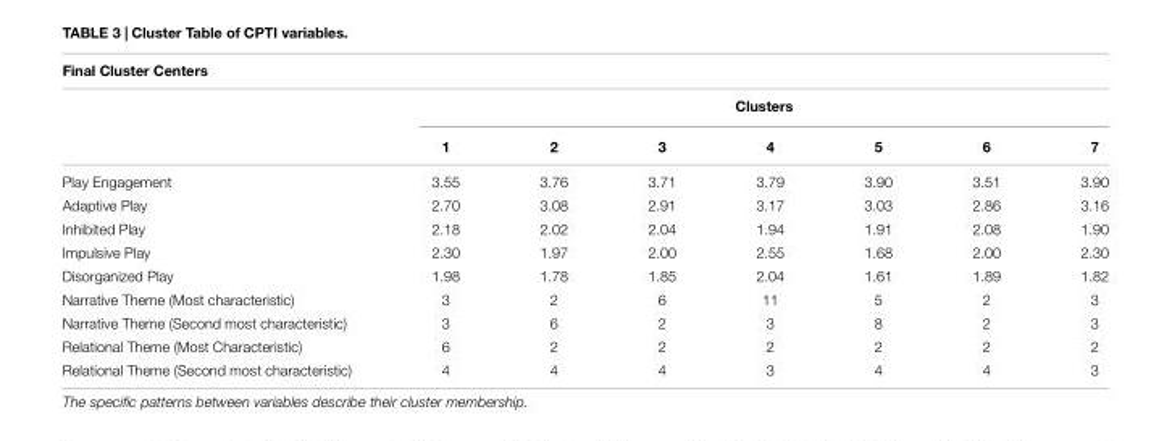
<table><thead><tr><td colspan="8">Final Cluster Centers</td></tr><tr><td rowspan="2"></td><td colspan="7">Clusters</td></tr><tr><td>1</td><td>2</td><td>3</td><td>4</td><td>5</td><td>6</td><td>7</td></tr></thead><tbody><tr><td>Play Engagement</td><td>3.55</td><td>3.76</td><td>3.71</td><td>3.79</td><td>3.90</td><td>3.51</td><td>3.90</td></tr><tr><td>Adaptive Play</td><td>2.70</td><td>3.08</td><td>2.91</td><td>3.17</td><td>3.03</td><td>2.86</td><td>3.16</td></tr><tr><td>Inhibited Play</td><td>2.18</td><td>2.02</td><td>2.04</td><td>1.94</td><td>1.91</td><td>2.08</td><td>1.90</td></tr><tr><td>Impulsive Play</td><td>2.30</td><td>1.97</td><td>2.00</td><td>2.55</td><td>1.68</td><td>2.00</td><td>2.30</td></tr><tr><td>Disorganized Play</td><td>1.98</td><td>1.78</td><td>1.85</td><td>2.04</td><td>1.61</td><td>1.89</td><td>1.82</td></tr><tr><td>Narrative Theme (Most characteristic)</td><td>3</td><td>2</td><td>6</td><td>11</td><td>5</td><td>2</td><td>3</td></tr><tr><td>Narrative Theme (Second most characteristic)</td><td>3</td><td>6</td><td>2</td><td>3</td><td>8</td><td>2</td><td>3</td></tr><tr><td>Relational Theme (Most Characteristic)</td><td>6</td><td>2</td><td>2</td><td>2</td><td>2</td><td>2</td><td>2</td></tr><tr><td>Relational Theme (Second most characteristic)</td><td>4</td><td>4</td><td>4</td><td>3</td><td>4</td><td>4</td><td>3</td></tr></tbody></table>